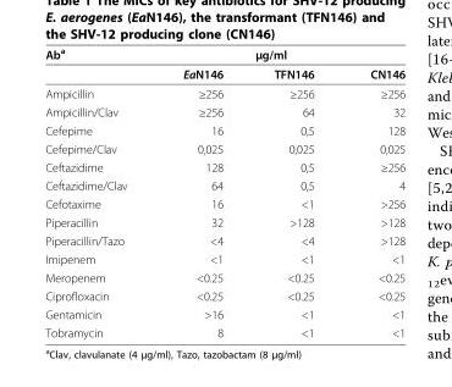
<table><thead><tr><td rowspan="2">Ab<sup>a</sup></td><td colspan="3">μg/ml</td></tr><tr><td>EaN146</td><td>TFN146</td><td>CN146</td></tr></thead><tbody><tr><td>Ampicillin</td><td>≥256</td><td>≥256</td><td>≥256</td></tr><tr><td>Ampicillin/Clav</td><td>≥256</td><td>64</td><td>32</td></tr><tr><td>Cefepime</td><td>16</td><td>0,5</td><td>128</td></tr><tr><td>Cefepime/Clav</td><td>0,025</td><td>0,025</td><td>0,025</td></tr><tr><td>Ceftazidime</td><td>128</td><td>0,5</td><td>≥256</td></tr><tr><td>Ceftazidime/Clav</td><td>64</td><td>0,5</td><td>4</td></tr><tr><td>Cefotaxime</td><td>16</td><td>&lt;1</td><td>&gt;256</td></tr><tr><td>Piperacillin</td><td>32</td><td>&gt;128</td><td>&gt;128</td></tr><tr><td>Piperacillin/Tazo</td><td>&lt;4</td><td>&lt;4</td><td>&gt;128</td></tr><tr><td>Imipenem</td><td>&lt;1</td><td>&lt;1</td><td>&lt;1</td></tr><tr><td>Meropenem</td><td>&lt;0.25</td><td>&lt;0.25</td><td>&lt;0.25</td></tr><tr><td>Ciprofloxacin</td><td>&lt;0.25</td><td>&lt;0.25</td><td>&lt;0.25</td></tr><tr><td>Gentamicin</td><td>&gt;16</td><td>&lt;1</td><td>&lt;1</td></tr><tr><td>Tobramycin</td><td>8</td><td>&lt;1</td><td>&lt;1</td></tr></tbody></table>